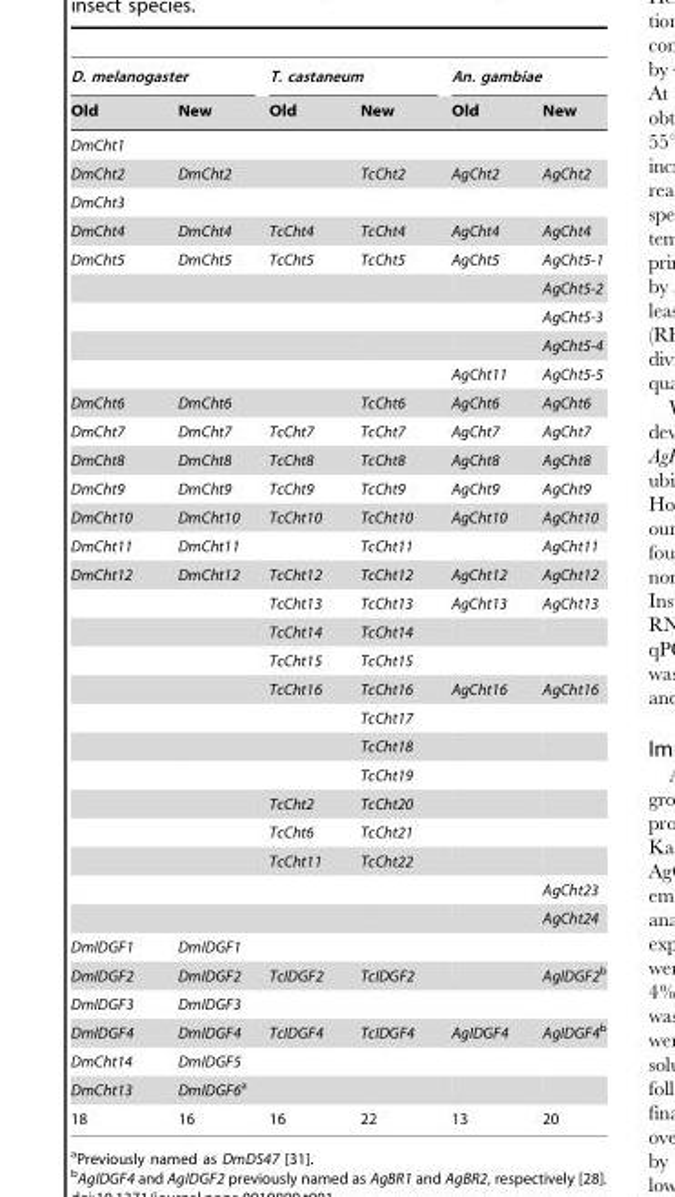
<table><thead><tr><td colspan="2">D. melanogaster</td><td colspan="2">T. castaneum</td><td colspan="2">An. gambiae</td></tr><tr><td>Old</td><td>New</td><td>Old</td><td>New</td><td>Old</td><td>New</td></tr></thead><tbody><tr><td colspan="6">DmCht1</td></tr><tr><td>DmCht2</td><td>DmCht2</td><td></td><td>TcCht2</td><td>AgCht2</td><td>AgCht2</td></tr><tr><td colspan="6">DmCht3</td></tr><tr><td>DmCht4</td><td>DmCht4</td><td>TcCht4</td><td>TcCht4</td><td>AgCht4</td><td>AgCht4</td></tr><tr><td rowspan="5">DmCht5</td><td>DmCht5</td><td>TcCht5</td><td>TcCht5</td><td>AgCht5</td><td>AgCht5-1</td></tr><tr><td></td><td></td><td></td><td></td><td>AgCht5-2</td></tr><tr><td></td><td></td><td></td><td></td><td>AgCht5-3</td></tr><tr><td></td><td></td><td></td><td></td><td>AgCht5-4</td></tr><tr><td></td><td></td><td></td><td>AgCht11</td><td>AgCht5-5</td></tr><tr><td>DmCht6</td><td>DmCht6</td><td></td><td>TcCht6</td><td>AgCht6</td><td>AgCht6</td></tr><tr><td>DmCht7</td><td>DmCht7</td><td>TcCht7</td><td>TcCht7</td><td>AgCht7</td><td>AgCht7</td></tr><tr><td>DmCht8</td><td>DmCht8</td><td>TcCht8</td><td>TcCht8</td><td>AgCht8</td><td>AgCht8</td></tr><tr><td>DmCht9</td><td>DmCht9</td><td>TcCht9</td><td>TcCht9</td><td>AgCht9</td><td>AgCht9</td></tr><tr><td>DmCht10</td><td>DmCht10</td><td>TcCht10</td><td>TcCht10</td><td>AgCht10</td><td>AgCht10</td></tr><tr><td>DmCht11</td><td>DmCht11</td><td></td><td>TcCht11</td><td></td><td>AgCht11</td></tr><tr><td rowspan="13">DmCht12</td><td>DmCht12</td><td>TcCht12</td><td>TcCht12</td><td>AgCht12</td><td>AgCht12</td></tr><tr><td></td><td>TcCht13</td><td>TcCht13</td><td>AgCht13</td><td>AgCht13</td></tr><tr><td></td><td>TcCht14</td><td>TcCht14</td><td></td><td></td></tr><tr><td></td><td>TcCht15</td><td>TcCht15</td><td></td><td></td></tr><tr><td></td><td>TcCht16</td><td>TcCht16</td><td>AgCht16</td><td>AgCht16</td></tr><tr><td></td><td></td><td>TcCht17</td><td></td><td></td></tr><tr><td></td><td></td><td>TcCht18</td><td></td><td></td></tr><tr><td></td><td></td><td>TcCht19</td><td></td><td></td></tr><tr><td></td><td>TcCht2</td><td>TcCht20</td><td></td><td></td></tr><tr><td></td><td>TcCht6</td><td>TcCht21</td><td></td><td></td></tr><tr><td></td><td>TcCht11</td><td>TcCht22</td><td></td><td></td></tr><tr><td></td><td></td><td></td><td></td><td>AgCht23</td></tr><tr><td></td><td></td><td></td><td></td><td>AgCht24</td></tr><tr><td>DmIDGF1</td><td>DmIDGF1</td><td></td><td></td><td></td><td></td></tr><tr><td>DmIDGF2</td><td>DmIDGF2</td><td>TcIDGF2</td><td>TcIDGF2</td><td></td><td>AgIDGF2b</td></tr><tr><td>DmIDGF3</td><td>DmIDGF3</td><td></td><td></td><td></td><td></td></tr><tr><td>DmIDGF4</td><td>DmIDGF4</td><td>TcIDGF4</td><td>TcIDGF4</td><td>AgIDGF4</td><td>AgIDGF4b</td></tr><tr><td>DmCht14</td><td>DmIDGF5</td><td></td><td></td><td></td><td></td></tr><tr><td>DmCht13</td><td>DmIDGF6a</td><td></td><td></td><td></td><td></td></tr><tr><td>18</td><td>16</td><td>16</td><td>22</td><td>13</td><td>20</td></tr></tbody></table>